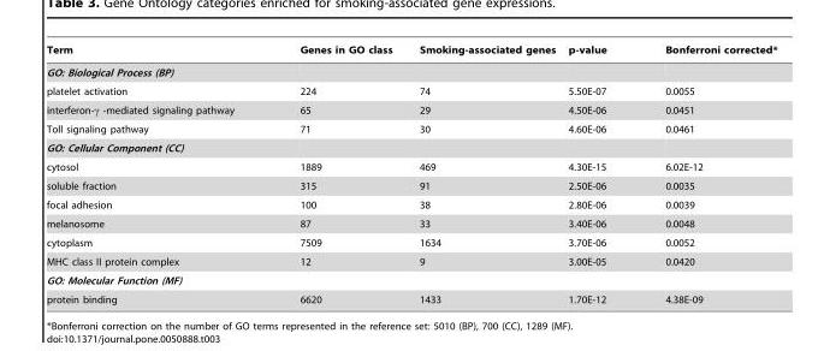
<table><thead><tr><td>Term</td><td>Genes in GO class</td><td>Smoking-associated genes</td><td>p-value</td><td>Bonferroni corrected*</td></tr></thead><tbody><tr><td colspan="5">GO: Biological Process (BP)</td></tr><tr><td>platelet activation</td><td>224</td><td>74</td><td>5.50E-07</td><td>0.0055</td></tr><tr><td>interferon-γ -mediated signaling pathway</td><td>65</td><td>29</td><td>4.50E-06</td><td>0.0451</td></tr><tr><td>Toll signaling pathway</td><td>71</td><td>30</td><td>4.60E-06</td><td>0.0461</td></tr><tr><td colspan="5">GO: Cellular Component (CC)</td></tr><tr><td>cytosol</td><td>1889</td><td>469</td><td>4.30E-15</td><td>6.02E-12</td></tr><tr><td>soluble fraction</td><td>315</td><td>91</td><td>2.50E-06</td><td>0.0035</td></tr><tr><td>focal adhesion</td><td>100</td><td>38</td><td>2.80E-06</td><td>0.0039</td></tr><tr><td>melanosome</td><td>87</td><td>33</td><td>3.40E-06</td><td>0.0048</td></tr><tr><td>cytoplasm</td><td>7509</td><td>1634</td><td>3.70E-06</td><td>0.0052</td></tr><tr><td>MHC class II protein complex</td><td>12</td><td>9</td><td>3.00E-05</td><td>0.0420</td></tr><tr><td colspan="5">GO: Molecular Function (MF)</td></tr><tr><td>protein binding</td><td>6620</td><td>1433</td><td>1.70E-12</td><td>4.38E-09</td></tr></tbody></table>